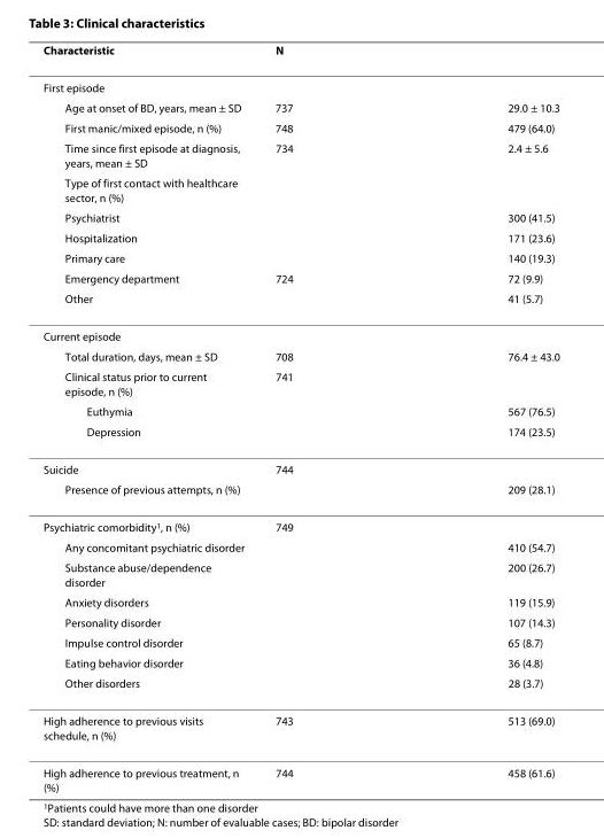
<table><thead><tr><td>Characteristic</td><td>N</td><td></td></tr></thead><tbody><tr><td colspan="3">First episode</td></tr><tr><td>Age at onset of BD, years, mean ± SD</td><td>737</td><td>29.0 ± 10.3</td></tr><tr><td>First manic/mixed episode, n (%)</td><td>748</td><td>479 (64.0)</td></tr><tr><td>Time since first episode at diagnosis, years, mean ± SD</td><td>734</td><td>2.4 ± 5.6</td></tr><tr><td colspan="3">Type of first contact with healthcare sector, n (%)</td></tr><tr><td>Psychiatrist</td><td></td><td>300 (41.5)</td></tr><tr><td>Hospitalization</td><td></td><td>171 (23.6)</td></tr><tr><td>Primary care</td><td></td><td>140 (19.3)</td></tr><tr><td>Emergency department</td><td>724</td><td>72 (9.9)</td></tr><tr><td>Other</td><td></td><td>41 (5.7)</td></tr><tr><td colspan="3">Current episode</td></tr><tr><td>Total duration, days, mean ± SD</td><td>708</td><td>76.4 ± 43.0</td></tr><tr><td>Clinical status prior to current episode, n (%)</td><td>741</td><td></td></tr><tr><td>Euthymia</td><td></td><td>567 (76.5)</td></tr><tr><td>Depression</td><td></td><td>174 (23.5)</td></tr><tr><td>Suicide</td><td>744</td><td></td></tr><tr><td>Presence of previous attempts, n (%)</td><td></td><td>209 (28.1)</td></tr><tr><td>Psychiatric comorbidity<sup>1</sup>, n (%)</td><td>749</td><td></td></tr><tr><td>Any concomitant psychiatric disorder</td><td></td><td>410 (54.7)</td></tr><tr><td>Substance abuse/dependence disorder</td><td></td><td>200 (26.7)</td></tr><tr><td>Anxiety disorders</td><td></td><td>119 (15.9)</td></tr><tr><td>Personality disorder</td><td></td><td>107 (14.3)</td></tr><tr><td>Impulse control disorder</td><td></td><td>65 (8.7)</td></tr><tr><td>Eating behavior disorder</td><td></td><td>36 (4.8)</td></tr><tr><td>Other disorders</td><td></td><td>28 (3.7)</td></tr><tr><td>High adherence to previous visits schedule, n (%)</td><td>743</td><td>513 (69.0)</td></tr><tr><td>High adherence to previous treatment, n (%)</td><td>744</td><td>458 (61.6)</td></tr></tbody></table>